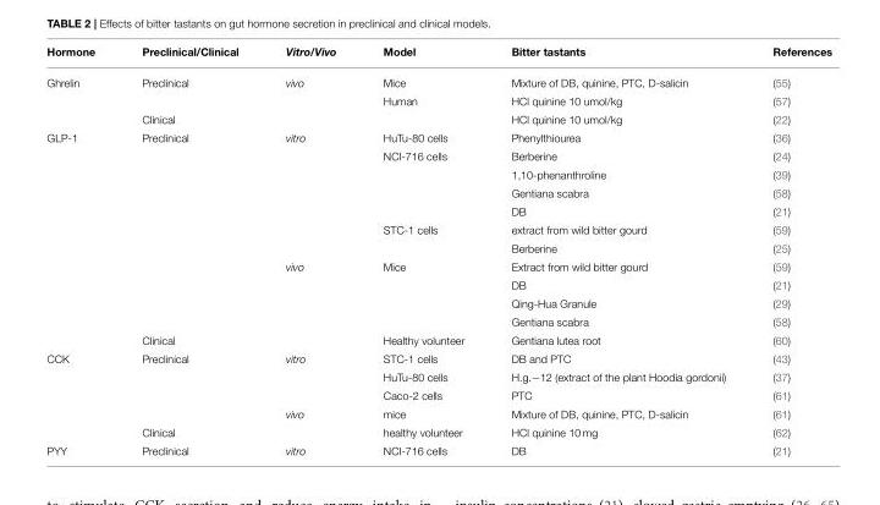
<table><thead><tr><td>Hormone</td><td>Preclinical/Clinical</td><td>Vitro/Vivo</td><td>Model</td><td>Bitter tastants</td><td>References</td></tr></thead><tbody><tr><td rowspan="3">Ghrelin</td><td>Preclinical</td><td>vivo</td><td>Mice</td><td>Mixture of DB, quinine, PTC, D-salicin</td><td>(55)</td></tr><tr><td></td><td></td><td>Human</td><td>HCl quinine 10 umol/kg</td><td>(57)</td></tr><tr><td>Clinical</td><td></td><td></td><td>HCl quinine 10 umol/kg</td><td>(22)</td></tr><tr><td rowspan="12">GLP-1</td><td>Preclinical</td><td>vitro</td><td>HuTu-80 cells</td><td>Phenylthiourea</td><td>(36)</td></tr><tr><td></td><td></td><td>NCI-716 cells</td><td>Berberine</td><td>(24)</td></tr><tr><td></td><td></td><td></td><td>1,10-phenanthroline</td><td>(39)</td></tr><tr><td></td><td></td><td></td><td>Gentiana scabra</td><td>(58)</td></tr><tr><td></td><td></td><td></td><td>DB</td><td>(21)</td></tr><tr><td></td><td></td><td>STC-1 cells</td><td>extract from wild bitter gourd</td><td>(59)</td></tr><tr><td></td><td></td><td></td><td>Berberine</td><td>(25)</td></tr><tr><td></td><td>vivo</td><td>Mice</td><td>Extract from wild bitter gourd</td><td>(59)</td></tr><tr><td></td><td></td><td></td><td>DB</td><td>(21)</td></tr><tr><td></td><td></td><td></td><td>Qing-Hua Granule</td><td>(29)</td></tr><tr><td></td><td></td><td></td><td>Gentiana scabra</td><td>(58)</td></tr><tr><td>Clinical</td><td></td><td>Healthy volunteer</td><td>Gentiana lutea root</td><td>(60)</td></tr><tr><td rowspan="5">CCK</td><td>Preclinical</td><td>vitro</td><td>STC-1 cells</td><td>DB and PTC</td><td>(43)</td></tr><tr><td></td><td></td><td>HuTu-80 cells</td><td>H.g.−12 (extract of the plant Hoodia gordonii)</td><td>(37)</td></tr><tr><td></td><td></td><td>Caco-2 cells</td><td>PTC</td><td>(61)</td></tr><tr><td></td><td>vivo</td><td>mice</td><td>Mixture of DB, quinine, PTC, D-salicin</td><td>(61)</td></tr><tr><td>Clinical</td><td></td><td>healthy volunteer</td><td>HCl quinine 10 mg</td><td>(62)</td></tr><tr><td>PYY</td><td>Preclinical</td><td>vitro</td><td>NCI-716 cells</td><td>DB</td><td>(21)</td></tr></tbody></table>